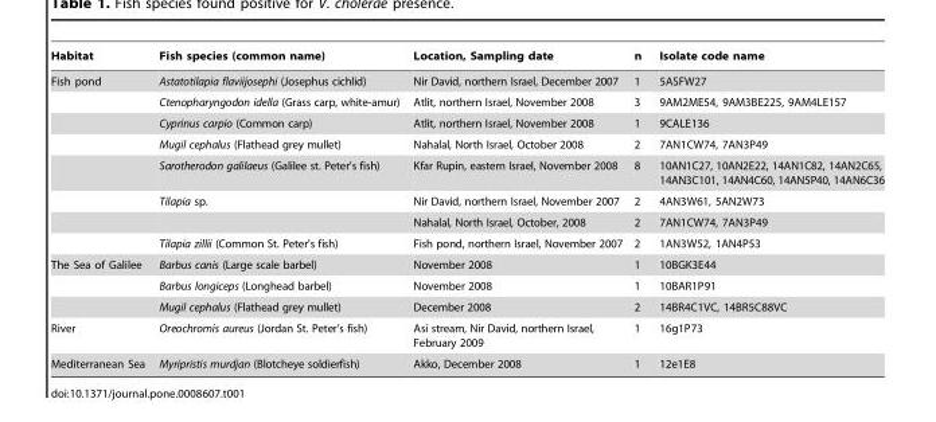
<table><thead><tr><td>Habitat</td><td>Fish species (common name)</td><td>Location, Sampling date</td><td>n</td><td>Isolate code name</td></tr></thead><tbody><tr><td rowspan="8">Fish pond</td><td>Astatotilapia flaviijosephi (Josephus cichlid)</td><td>Nir David, northern Israel, December 2007</td><td>1</td><td>5ASFW27</td></tr><tr><td>Ctenopharyngodon idella (Grass carp, white-amur)</td><td>Atlit, northern Israel, November 2008</td><td>3</td><td>9AM2ME54, 9AM3BE225, 9AM4LE157</td></tr><tr><td>Cyprinus carpio (Common carp)</td><td>Atlit, northern Israel, November 2008</td><td>1</td><td>9CALE136</td></tr><tr><td>Mugil cephalus (Flathead grey mullet)</td><td>Nahalal, North Israel, October 2008</td><td>2</td><td>7AN1CW74, 7AN3P49</td></tr><tr><td>Sarotherodon galilaeus (Galilee st. Peter’s fish)</td><td>Kfar Rupin, eastern Israel, November 2008</td><td>8</td><td>10AN1C27, 10AN2E22, 14AN1C82, 14AN2C65, 14AN3C101, 14AN4C60, 14AN5P40, 14AN6C36</td></tr><tr><td>Tilapia sp.</td><td>Nir David, northern Israel, November 2007</td><td>2</td><td>4AN3W61, 5AN2W73</td></tr><tr><td></td><td>Nahalal, North Israel, October, 2008</td><td>2</td><td>7AN1CW74, 7AN3P49</td></tr><tr><td>Tilapia zillii (Common St. Peter’s fish)</td><td>Fish pond, northern Israel, November 2007</td><td>2</td><td>1AN3W52, 1AN4P53</td></tr><tr><td rowspan="3">The Sea of Galilee</td><td>Barbus canis (Large scale barbel)</td><td>November 2008</td><td>1</td><td>10BGK3E44</td></tr><tr><td>Barbus longiceps (Longhead barbel)</td><td>November 2008</td><td>1</td><td>10BAR1P91</td></tr><tr><td>Mugil cephalus (Flathead grey mullet)</td><td>December 2008</td><td>2</td><td>14BR4C1VC, 14BR5C88VC</td></tr><tr><td>River</td><td>Oreochromis aureus (Jordan St. Peter’s fish)</td><td>Asi stream, Nir David, northern Israel, February 2009</td><td>1</td><td>16g1P73</td></tr><tr><td>Mediterranean Sea</td><td>Myripristis murdjan (Blotcheye soldierfish)</td><td>Akko, December 2008</td><td>1</td><td>12e1E8</td></tr></tbody></table>